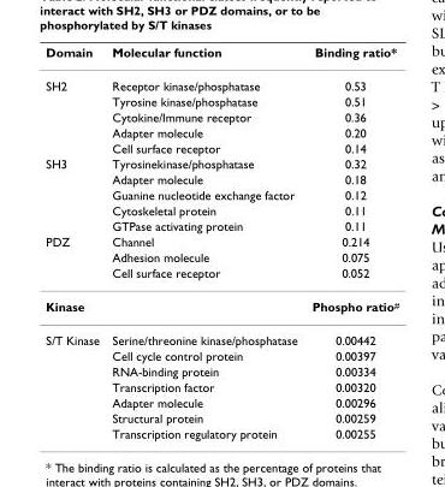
<table><thead><tr><td>Domain</td><td>Molecular function</td><td>Binding ratio*</td></tr></thead><tbody><tr><td rowspan="5">SH2</td><td>Receptor kinase/phosphatase</td><td>0.53</td></tr><tr><td>Tyrosine kinase/phosphatase</td><td>0.51</td></tr><tr><td>Cytokine/Immune receptor</td><td>0.36</td></tr><tr><td>Adapter molecule</td><td>0.20</td></tr><tr><td>Cell surface receptor</td><td>0.14</td></tr><tr><td rowspan="5">SH3</td><td>Tyrosinekinase/phosphatase</td><td>0.32</td></tr><tr><td>Adapter molecule</td><td>0.18</td></tr><tr><td>Guanine nucleotide exchange factor</td><td>0.12</td></tr><tr><td>Cytoskeletal protein</td><td>0.11</td></tr><tr><td>GTPase activating protein</td><td>0.11</td></tr><tr><td rowspan="3">PDZ</td><td>Channel</td><td>0.214</td></tr><tr><td>Adhesion molecule</td><td>0.075</td></tr><tr><td>Cell surface receptor</td><td>0.052</td></tr><tr><td>Kinase</td><td></td><td>Phospho ratio<sup>#</sup></td></tr><tr><td rowspan="7">S/T Kinase</td><td>Serine/threonine kinase/phosphatase</td><td>0.00442</td></tr><tr><td>Cell cycle control protein</td><td>0.00397</td></tr><tr><td>RNA-binding protein</td><td>0.00334</td></tr><tr><td>Transcription factor</td><td>0.00320</td></tr><tr><td>Adapter molecule</td><td>0.00296</td></tr><tr><td>Structural protein</td><td>0.00259</td></tr><tr><td>Transcription regulatory protein</td><td>0.00255</td></tr></tbody></table>